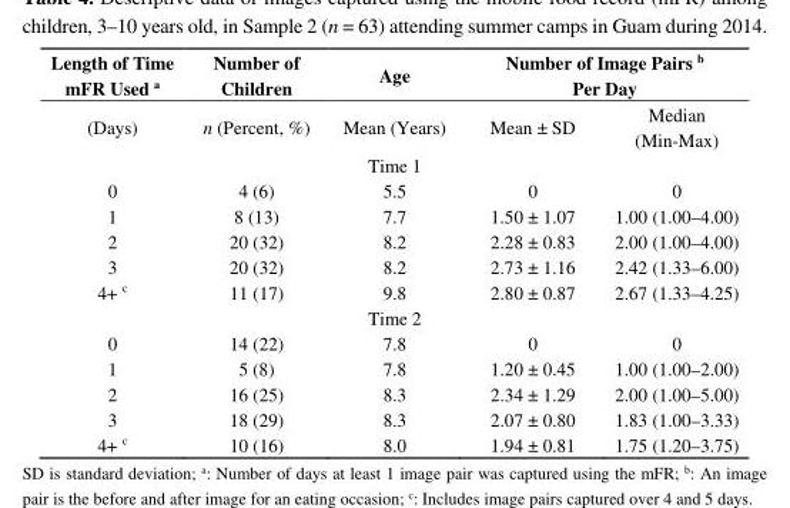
<table><thead><tr><td rowspan="2">Length of Time mFR Used <sup>a</sup> (Days)</td><td rowspan="2">Number of Children n (Percent, %)</td><td rowspan="2">Age Mean (Years)</td><td colspan="2">Number of Image Pairs <sup>b</sup> Per Day</td></tr><tr><td>Mean ± SD</td><td>Median (Min-Max)</td></tr></thead><tbody><tr><td colspan="5">Time 1</td></tr><tr><td>0</td><td>4 (6)</td><td>5.5</td><td>0</td><td>0</td></tr><tr><td>1</td><td>8 (13)</td><td>7.7</td><td>1.50 ± 1.07</td><td>1.00 (1.00–4.00)</td></tr><tr><td>2</td><td>20 (32)</td><td>8.2</td><td>2.28 ± 0.83</td><td>2.00 (1.00–4.00)</td></tr><tr><td>3</td><td>20 (32)</td><td>8.2</td><td>2.73 ± 1.16</td><td>2.42 (1.33–6.00)</td></tr><tr><td>4+ <sup>c</sup></td><td>11 (17)</td><td>9.8</td><td>2.80 ± 0.87</td><td>2.67 (1.33–4.25)</td></tr><tr><td colspan="5">Time 2</td></tr><tr><td>0</td><td>14 (22)</td><td>7.8</td><td>0</td><td>0</td></tr><tr><td>1</td><td>5 (8)</td><td>7.8</td><td>1.20 ± 0.45</td><td>1.00 (1.00–2.00)</td></tr><tr><td>2</td><td>16 (25)</td><td>8.3</td><td>2.34 ± 1.29</td><td>2.00 (1.00–5.00)</td></tr><tr><td>3</td><td>18 (29)</td><td>8.3</td><td>2.07 ± 0.80</td><td>1.83 (1.00–3.33)</td></tr><tr><td>4+ <sup>c</sup></td><td>10 (16)</td><td>8.0</td><td>1.94 ± 0.81</td><td>1.75 (1.20–3.75)</td></tr></tbody></table>